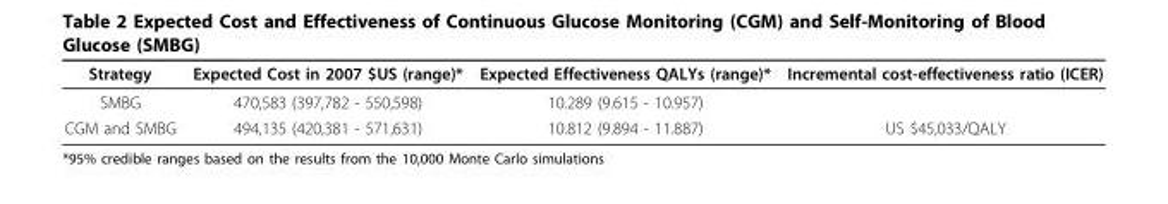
<table><thead><tr><td>Strategy</td><td>Expected Cost in 2007 $US (range)*</td><td>Expected Effectiveness QALYs (range)*</td><td>Incremental cost-effectiveness ratio (ICER)</td></tr></thead><tbody><tr><td>SMBG</td><td>470,583 (397,782 - 550,598)</td><td>10.289 (9.615 - 10.957)</td><td></td></tr><tr><td>CGM and SMBG</td><td>494,135 (420,381 - 571,631)</td><td>10.812 (9.894 - 11.887)</td><td>US $45,033/QALY</td></tr></tbody></table>